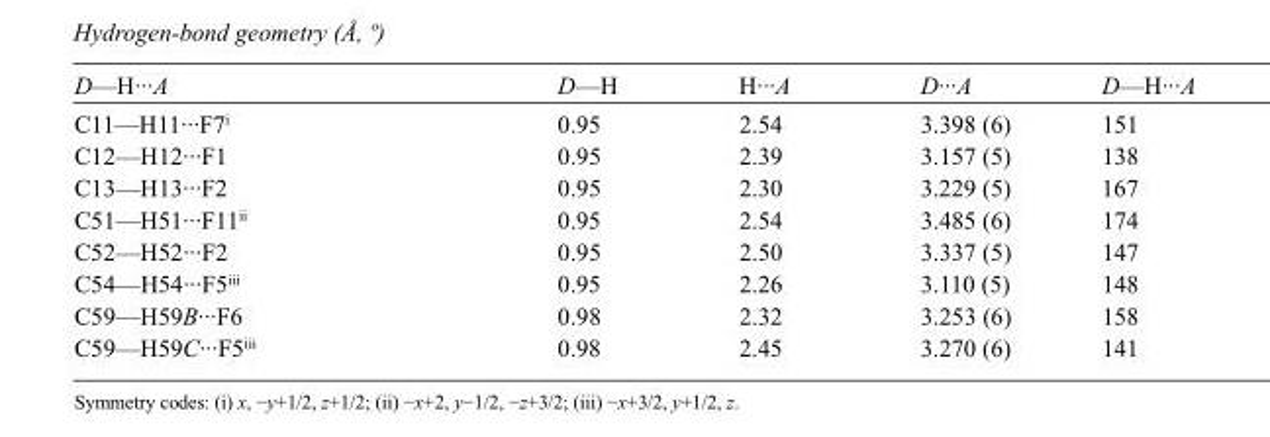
<table><tbody><tr><td>D—H···A</td><td>D—H</td><td>H···A</td><td>D···A</td><td>D—H···A</td></tr><tr><td>C11—H11···F7<sup>i</sup></td><td>0.95</td><td>2.54</td><td>3.398 (6)</td><td>151</td></tr><tr><td>C12—H12···F1</td><td>0.95</td><td>2.39</td><td>3.157 (5)</td><td>138</td></tr><tr><td>C13—H13···F2</td><td>0.95</td><td>2.30</td><td>3.229 (5)</td><td>167</td></tr><tr><td>C51—H51···F11<sup>ii</sup></td><td>0.95</td><td>2.54</td><td>3.485 (6)</td><td>174</td></tr><tr><td>C52—H52···F2</td><td>0.95</td><td>2.50</td><td>3.337 (5)</td><td>147</td></tr><tr><td>C54—H54···F5<sup>iii</sup></td><td>0.95</td><td>2.26</td><td>3.110 (5)</td><td>148</td></tr><tr><td>C59—H59B···F6</td><td>0.98</td><td>2.32</td><td>3.253 (6)</td><td>158</td></tr><tr><td>C59—H59C···F5<sup>iii</sup></td><td>0.98</td><td>2.45</td><td>3.270 (6)</td><td>141</td></tr></tbody></table>